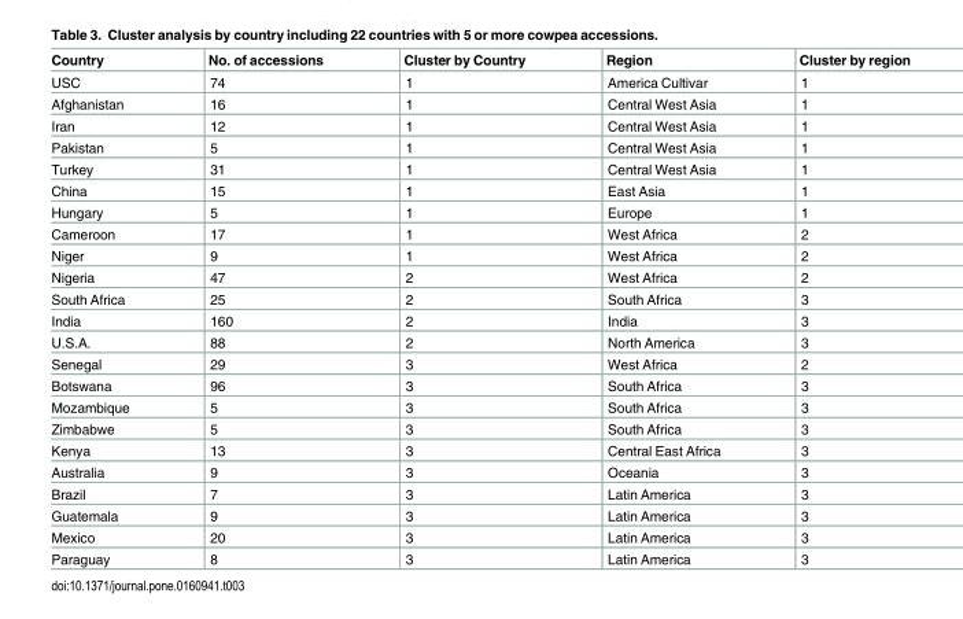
<table><thead><tr><td>Country</td><td>No. of accessions</td><td>Cluster by Country</td><td>Region</td><td>Cluster by region</td></tr></thead><tbody><tr><td>USC</td><td>74</td><td>1</td><td>America Cultivar</td><td>1</td></tr><tr><td>Afghanistan</td><td>16</td><td>1</td><td>Central West Asia</td><td>1</td></tr><tr><td>Iran</td><td>12</td><td>1</td><td>Central West Asia</td><td>1</td></tr><tr><td>Pakistan</td><td>5</td><td>1</td><td>Central West Asia</td><td>1</td></tr><tr><td>Turkey</td><td>31</td><td>1</td><td>Central West Asia</td><td>1</td></tr><tr><td>China</td><td>15</td><td>1</td><td>East Asia</td><td>1</td></tr><tr><td>Hungary</td><td>5</td><td>1</td><td>Europe</td><td>1</td></tr><tr><td>Cameroon</td><td>17</td><td>1</td><td>West Africa</td><td>2</td></tr><tr><td>Niger</td><td>9</td><td>1</td><td>West Africa</td><td>2</td></tr><tr><td>Nigeria</td><td>47</td><td>2</td><td>West Africa</td><td>2</td></tr><tr><td>South Africa</td><td>25</td><td>2</td><td>South Africa</td><td>3</td></tr><tr><td>India</td><td>160</td><td>2</td><td>India</td><td>3</td></tr><tr><td>U.S.A.</td><td>88</td><td>2</td><td>North America</td><td>3</td></tr><tr><td>Senegal</td><td>29</td><td>3</td><td>West Africa</td><td>2</td></tr><tr><td>Botswana</td><td>96</td><td>3</td><td>South Africa</td><td>3</td></tr><tr><td>Mozambique</td><td>5</td><td>3</td><td>South Africa</td><td>3</td></tr><tr><td>Zimbabwe</td><td>5</td><td>3</td><td>South Africa</td><td>3</td></tr><tr><td>Kenya</td><td>13</td><td>3</td><td>Central East Africa</td><td>3</td></tr><tr><td>Australia</td><td>9</td><td>3</td><td>Oceania</td><td>3</td></tr><tr><td>Brazil</td><td>7</td><td>3</td><td>Latin America</td><td>3</td></tr><tr><td>Guatemala</td><td>9</td><td>3</td><td>Latin America</td><td>3</td></tr><tr><td>Mexico</td><td>20</td><td>3</td><td>Latin America</td><td>3</td></tr><tr><td>Paraguay</td><td>8</td><td>3</td><td>Latin America</td><td>3</td></tr></tbody></table>